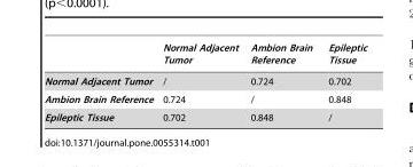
<table><thead><tr><td></td><td>Normal Adjacent Tumor</td><td>Ambion Brain Reference</td><td>Epileptic Tissue</td></tr></thead><tbody><tr><td>Normal Adjacent Tumor</td><td>/</td><td>0.724</td><td>0.702</td></tr><tr><td>Ambion Brain Reference</td><td>0.724</td><td>/</td><td>0.848</td></tr><tr><td>Epileptic Tissue</td><td>0.702</td><td>0.848</td><td>/</td></tr></tbody></table>